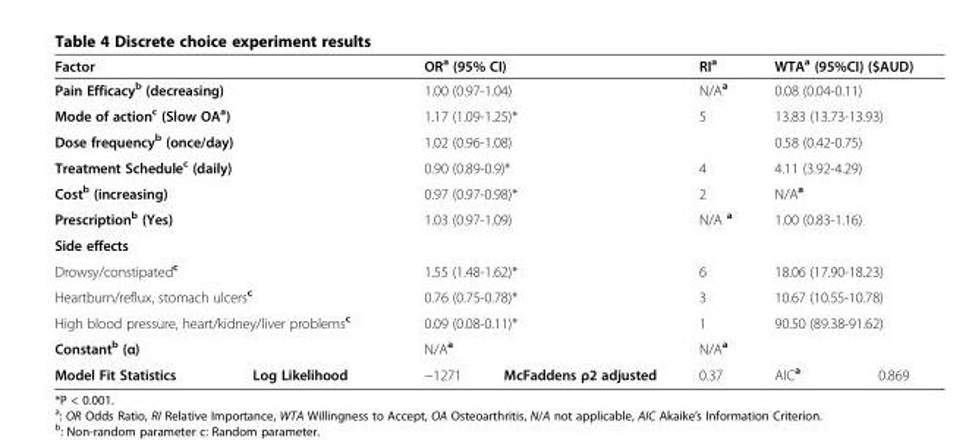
<table><thead><tr><td colspan="2">Factor</td><td colspan="2">OR<sup>a</sup> (95% CI)</td><td>RI<sup>a</sup></td><td colspan="2">WTA<sup>a</sup> (95%CI) ($AUD)</td></tr></thead><tbody><tr><td colspan="2">Pain Efficacy<sup>b</sup> (decreasing)</td><td colspan="2">1.00 (0.97-1.04)</td><td>N/A<sup>a</sup></td><td colspan="2">0.08 (0.04-0.11)</td></tr><tr><td colspan="2">Mode of action<sup>c</sup> (Slow OA<sup>a</sup>)</td><td colspan="2">1.17 (1.09-1.25)*</td><td>5</td><td colspan="2">13.83 (13.73-13.93)</td></tr><tr><td colspan="2">Dose frequency<sup>b</sup> (once/day)</td><td colspan="2">1.02 (0.96-1.08)</td><td></td><td colspan="2">0.58 (0.42-0.75)</td></tr><tr><td colspan="2">Treatment Schedule<sup>c</sup> (daily)</td><td colspan="2">0.90 (0.89-0.9)*</td><td>4</td><td colspan="2">4.11 (3.92-4.29)</td></tr><tr><td colspan="2">Cost<sup>b</sup> (increasing)</td><td colspan="2">0.97 (0.97-0.98)*</td><td>2</td><td colspan="2">N/A<sup>a</sup></td></tr><tr><td colspan="2">Prescription<sup>b</sup> (Yes)</td><td colspan="2">1.03 (0.97-1.09)</td><td>N/A <sup>a</sup></td><td colspan="2">1.00 (0.83-1.16)</td></tr><tr><td colspan="7">Side effects</td></tr><tr><td colspan="2">Drowsy/constipated<sup>c</sup></td><td colspan="2">1.55 (1.48-1.62)*</td><td>6</td><td colspan="2">18.06 (17.90-18.23)</td></tr><tr><td colspan="2">Heartburn/reflux, stomach ulcers<sup>c</sup></td><td colspan="2">0.76 (0.75-0.78)*</td><td>3</td><td colspan="2">10.67 (10.55-10.78)</td></tr><tr><td colspan="2">High blood pressure, heart/kidney/liver problems<sup>c</sup></td><td colspan="2">0.09 (0.08-0.11)*</td><td>1</td><td colspan="2">90.50 (89.38-91.62)</td></tr><tr><td colspan="2">Constant<sup>b</sup> (α)</td><td colspan="2">N/A<sup>a</sup></td><td>N/A<sup>a</sup></td><td colspan="2"></td></tr><tr><td>Model Fit Statistics</td><td>Log Likelihood</td><td>−1271</td><td>McFaddens ρ2 adjusted</td><td>0.37</td><td>AIC<sup>a</sup></td><td>0.869</td></tr></tbody></table>